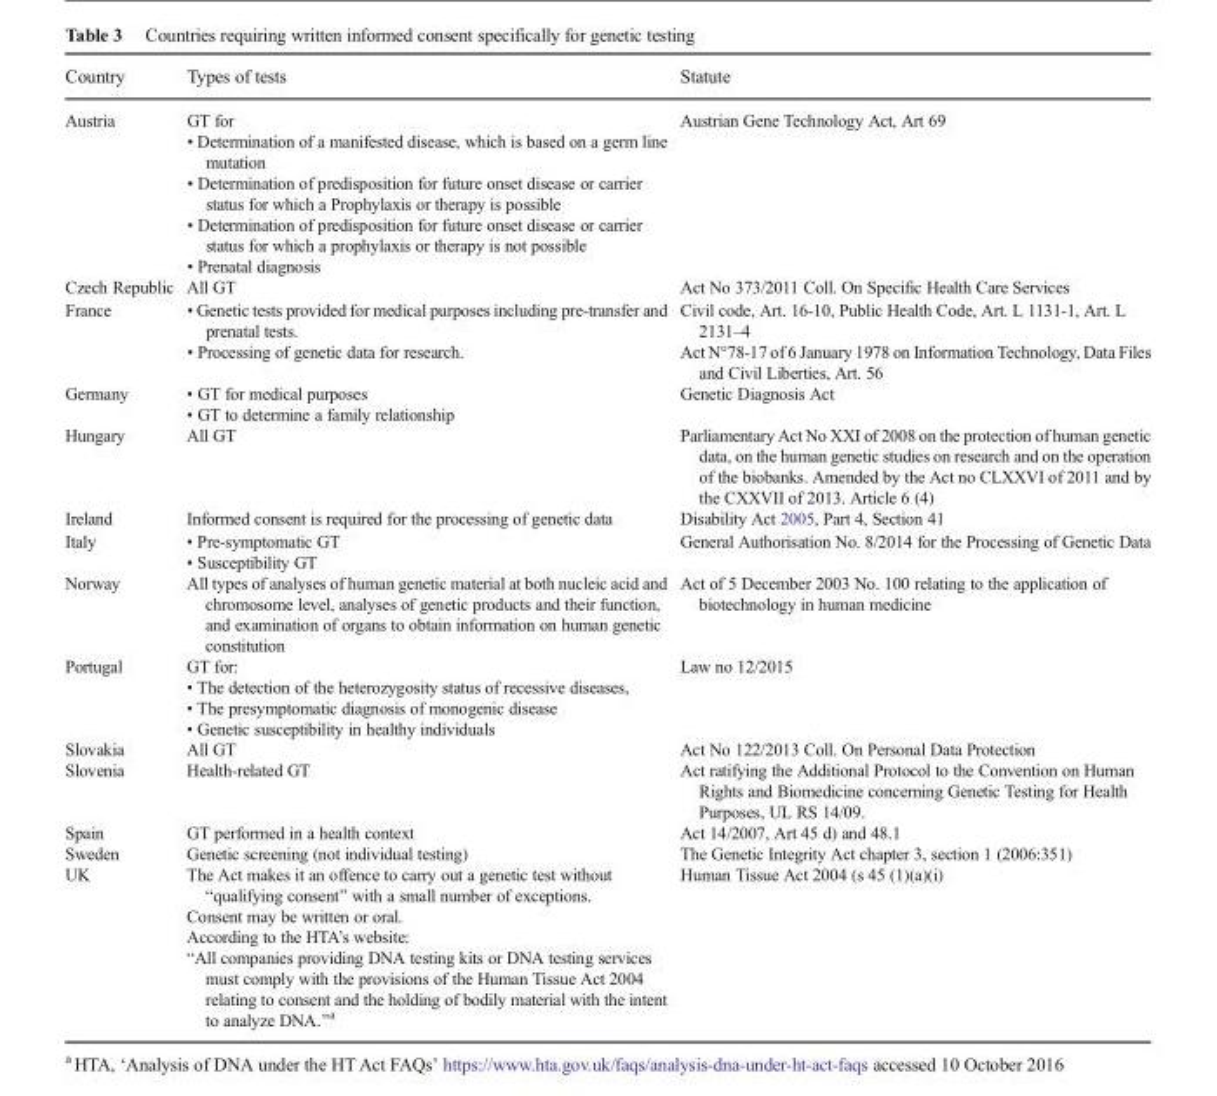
<table><thead><tr><td>Country</td><td>Types of tests</td><td>Statute</td></tr></thead><tbody><tr><td>Austria</td><td>GT for • Determination of a manifested disease, which is based on a germ line mutation • Determination of predisposition for future onset disease or carrier status for which a Prophylaxis or therapy is possible • Determination of predisposition for future onset disease or carrier status for which a prophylaxis or therapy is not possible • Prenatal diagnosis</td><td>Austrian Gene Technology Act, Art 69</td></tr><tr><td>Czech Republic</td><td>All GT</td><td>Act No 373/2011 Coll. On Specific Health Care Services</td></tr><tr><td>France</td><td>• Genetic tests provided for medical purposes including pre-transfer and prenatal tests. • Processing of genetic data for research.</td><td>Civil code, Art. 16-10, Public Health Code, Art. L 1131-1, Art. L 2131–4 Act N°78-17 of 6 January 1978 on Information Technology, Data Files and Civil Liberties, Art. 56</td></tr><tr><td>Germany</td><td>• GT for medical purposes • GT to determine a family relationship</td><td>Genetic Diagnosis Act</td></tr><tr><td>Hungary</td><td>All GT</td><td>Parliamentary Act No XXI of 2008 on the protection of human genetic data, on the human genetic studies on research and on the operation of the biobanks. Amended by the Act no CLXXVI of 2011 and by the CXXVII of 2013. Article 6 (4)</td></tr><tr><td>Ireland</td><td>Informed consent is required for the processing of genetic data</td><td>Disability Act 2005, Part 4, Section 41</td></tr><tr><td>Italy</td><td>• Pre-symptomatic GT • Susceptibility GT</td><td>General Authorisation No. 8/2014 for the Processing of Genetic Data</td></tr><tr><td>Norway</td><td>All types of analyses of human genetic material at both nucleic acid and chromosome level, analyses of genetic products and their function, and examination of organs to obtain information on human genetic constitution</td><td>Act of 5 December 2003 No. 100 relating to the application of biotechnology in human medicine</td></tr><tr><td>Portugal</td><td>GT for: • The detection of the heterozygosity status of recessive diseases, • The presymptomatic diagnosis of monogenic disease • Genetic susceptibility in healthy individuals</td><td>Law no 12/2015</td></tr><tr><td>Slovakia</td><td>All GT</td><td>Act No 122/2013 Coll. On Personal Data Protection</td></tr><tr><td>Slovenia</td><td>Health-related GT</td><td>Act ratifying the Additional Protocol to the Convention on Human Rights and Biomedicine concerning Genetic Testing for Health Purposes, UL RS 14/09.</td></tr><tr><td>Spain</td><td>GT performed in a health context</td><td>Act 14/2007, Art 45 d) and 48.1</td></tr><tr><td>Sweden</td><td>Genetic screening (not individual testing)</td><td>The Genetic Integrity Act chapter 3, section 1 (2006:351)</td></tr><tr><td>UK</td><td>The Act makes it an offence to carry out a genetic test without “qualifying consent” with a small number of exceptions. Consent may be written or oral. According to the HTA’s website: “All companies providing DNA testing kits or DNA testing services must comply with the provisions of the Human Tissue Act 2004 relating to consent and the holding of bodily material with the intent to analyze DNA.”<sup>a</sup></td><td>Human Tissue Act 2004 (s 45 (1)(a)(i)</td></tr></tbody></table>